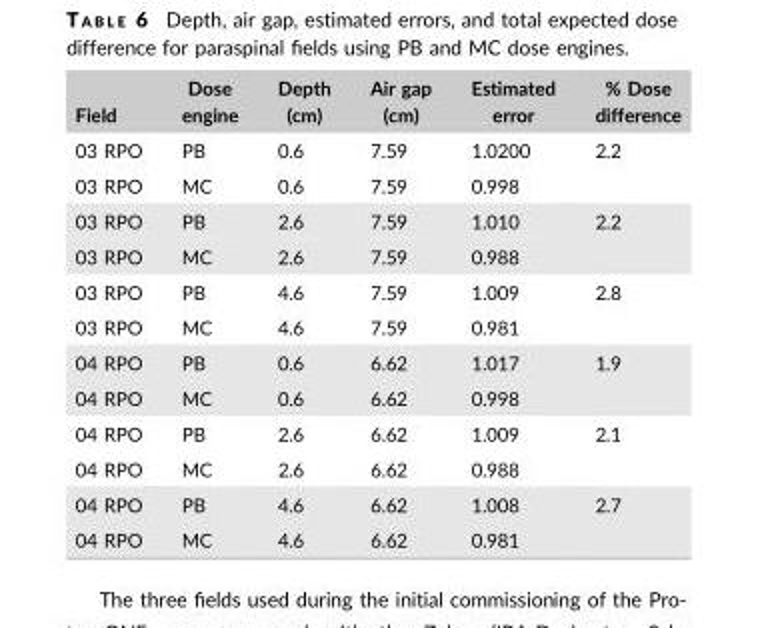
<table><thead><tr><td>Field</td><td>Dose engine</td><td>Depth (cm)</td><td>Air gap (cm)</td><td>Estimated error</td><td>% Dose difference</td></tr></thead><tbody><tr><td>03 RPO</td><td>PB</td><td>0.6</td><td>7.59</td><td>1.0200</td><td rowspan="2">2.2</td></tr><tr><td>03 RPO</td><td>MC</td><td>0.6</td><td>7.59</td><td>0.998</td></tr><tr><td>03 RPO</td><td>PB</td><td>2.6</td><td>7.59</td><td>1.010</td><td rowspan="2">2.2</td></tr><tr><td>03 RPO</td><td>MC</td><td>2.6</td><td>7.59</td><td>0.988</td></tr><tr><td>03 RPO</td><td>PB</td><td>4.6</td><td>7.59</td><td>1.009</td><td rowspan="2">2.8</td></tr><tr><td>03 RPO</td><td>MC</td><td>4.6</td><td>7.59</td><td>0.981</td></tr><tr><td>04 RPO</td><td>PB</td><td>0.6</td><td>6.62</td><td>1.017</td><td rowspan="2">1.9</td></tr><tr><td>04 RPO</td><td>MC</td><td>0.6</td><td>6.62</td><td>0.998</td></tr><tr><td>04 RPO</td><td>PB</td><td>2.6</td><td>6.62</td><td>1.009</td><td rowspan="2">2.1</td></tr><tr><td>04 RPO</td><td>MC</td><td>2.6</td><td>6.62</td><td>0.988</td></tr><tr><td>04 RPO</td><td>PB</td><td>4.6</td><td>6.62</td><td>1.008</td><td rowspan="2">2.7</td></tr><tr><td>04 RPO</td><td>MC</td><td>4.6</td><td>6.62</td><td>0.981</td></tr></tbody></table>